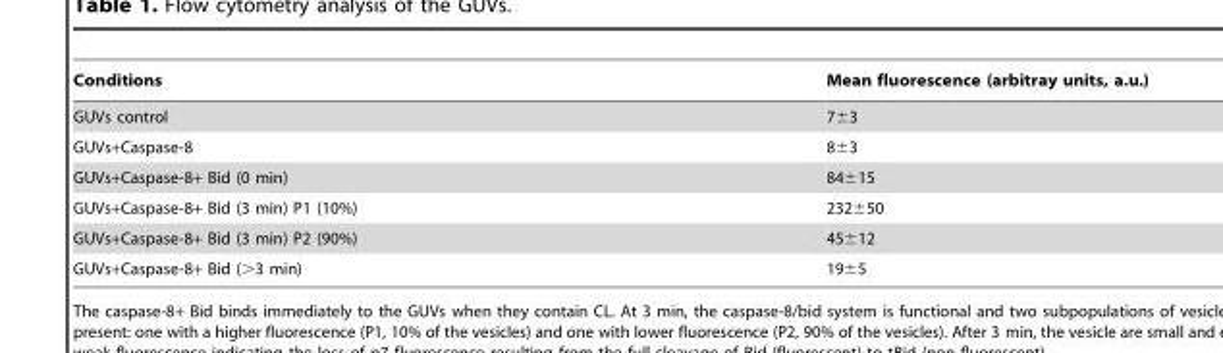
<table><thead><tr><td>Conditions</td><td>Mean fluorescence (arbitray units, a.u.)</td></tr></thead><tbody><tr><td>GUVs control</td><td>7±3</td></tr><tr><td>GUVs+Caspase-8</td><td>8±3</td></tr><tr><td>GUVs+Caspase-8+ Bid (0 min)</td><td>84±15</td></tr><tr><td>GUVs+Caspase-8+ Bid (3 min) P1 (10%)</td><td>232±50</td></tr><tr><td>GUVs+Caspase-8+ Bid (3 min) P2 (90%)</td><td>45±12</td></tr><tr><td>GUVs+Caspase-8+ Bid (&gt;3 min)</td><td>19±5</td></tr></tbody></table>